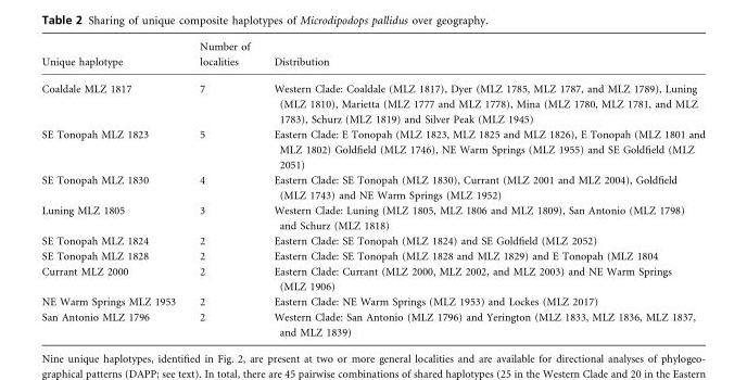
<table><thead><tr><td>Unique haplotype</td><td>Number of localities</td><td>Distribution</td></tr></thead><tbody><tr><td>Coaldale MLZ 1817</td><td>7</td><td>Western Clade: Coaldale (MLZ 1817), Dyer (MLZ 1785, MLZ 1787, and MLZ 1789), Luning (MLZ 1810), Marietta (MLZ 1777 and MLZ 1778), Mina (MLZ 1780, MLZ 1781, and MLZ 1783), Schurz (MLZ 1819) and Silver Peak (MLZ 1945)</td></tr><tr><td>SE Tonopah MLZ 1823</td><td>5</td><td>Eastern Clade: E Tonopah (MLZ 1823, MLZ 1825 and MLZ 1826), E Tonopah (MLZ 1801 and MLZ 1802) Goldfield (MLZ 1746), NE Warm Springs (MLZ 1955) and SE Goldfield (MLZ 2051)</td></tr><tr><td>SE Tonopah MLZ 1830</td><td>4</td><td>Eastern Clade: SE Tonopah (MLZ 1830), Currant (MLZ 2001 and MLZ 2004), Goldfield (MLZ 1743) and NE Warm Springs (MLZ 1952)</td></tr><tr><td>Luning MLZ 1805</td><td>3</td><td>Western Clade: Luning (MLZ 1805, MLZ 1806 and MLZ 1809), San Antonio (MLZ 1798) and Schurz (MLZ 1818)</td></tr><tr><td>SE Tonopah MLZ 1824</td><td>2</td><td>Eastern Clade: SE Tonopah (MLZ 1824) and SE Goldfield (MLZ 2052)</td></tr><tr><td>SE Tonopah MLZ 1828</td><td>2</td><td>Eastern Clade: SE Tonopah (MLZ 1828 and MLZ 1829) and E Tonopah (MLZ 1804</td></tr><tr><td>Currant MLZ 2000</td><td>2</td><td>Eastern Clade: Currant (MLZ 2000, MLZ 2002, and MLZ 2003) and NE Warm Springs (MLZ 1906)</td></tr><tr><td>NE Warm Springs MLZ 1953</td><td>2</td><td>Eastern Clade: NE Warm Springs (MLZ 1953) and Lockes (MLZ 2017)</td></tr><tr><td>San Antonio MLZ 1796</td><td>2</td><td>Western Clade: San Antonio (MLZ 1796) and Yerington (MLZ 1833, MLZ 1836, MLZ 1837, and MLZ 1839)</td></tr></tbody></table>